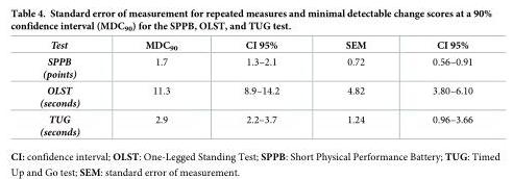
<table><thead><tr><td>Test</td><td>MDC<sub>90</sub></td><td>CI 95%</td><td>SEM</td><td>CI 95%</td></tr></thead><tbody><tr><td>SPPB (points)</td><td>1.7</td><td>1.3–2.1</td><td>0.72</td><td>0.56–0.91</td></tr><tr><td>OLST (seconds)</td><td>11.3</td><td>8.9–14.2</td><td>4.82</td><td>3.80–6.10</td></tr><tr><td>TUG (seconds)</td><td>2.9</td><td>2.2–3.7</td><td>1.24</td><td>0.96–3.66</td></tr></tbody></table>